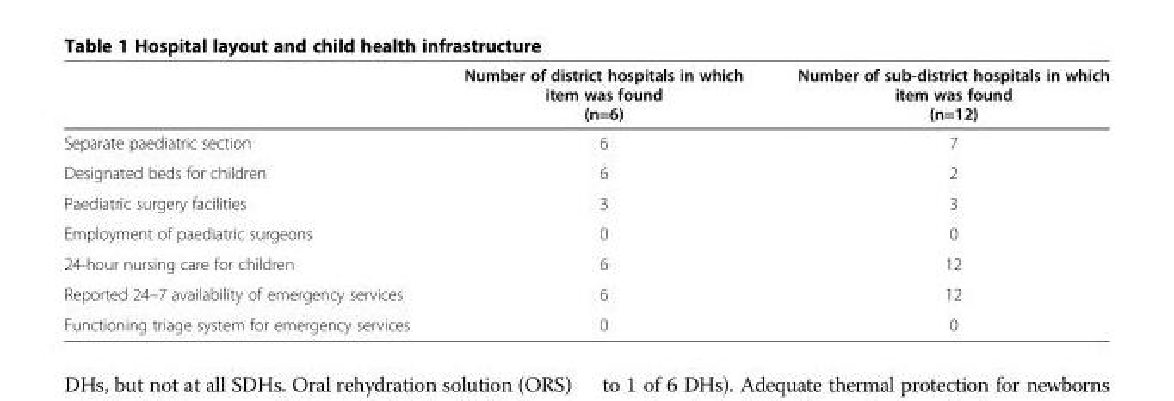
<table><thead><tr><td></td><td>Number of district hospitals in which item was found (n=6)</td><td>Number of sub-district hospitals in which item was found (n=12)</td></tr></thead><tbody><tr><td>Separate paediatric section</td><td>6</td><td>7</td></tr><tr><td>Designated beds for children</td><td>6</td><td>2</td></tr><tr><td>Paediatric surgery facilities</td><td>3</td><td>3</td></tr><tr><td>Employment of paediatric surgeons</td><td>0</td><td>0</td></tr><tr><td>24-hour nursing care for children</td><td>6</td><td>12</td></tr><tr><td>Reported 24–7 availability of emergency services</td><td>6</td><td>12</td></tr><tr><td>Functioning triage system for emergency services</td><td>0</td><td>0</td></tr></tbody></table>